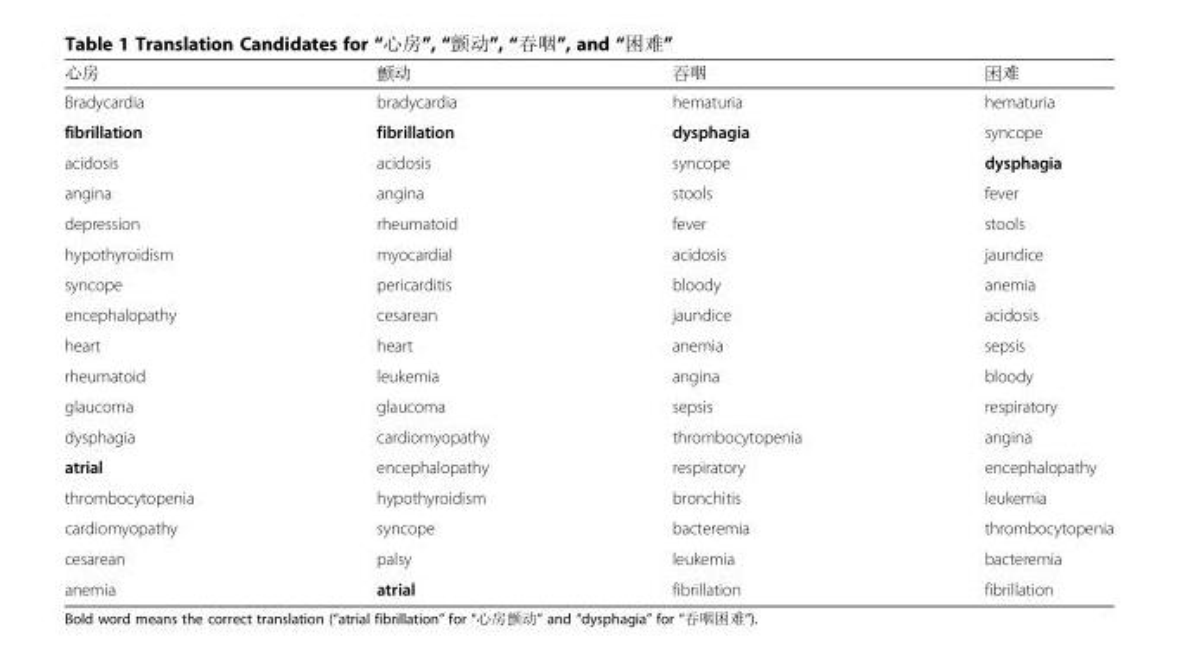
<table><thead><tr><td>心房</td><td>颤动</td><td>吞咽</td><td>困难</td></tr></thead><tbody><tr><td>Bradycardia</td><td>bradycardia</td><td>hematuria</td><td>hematuria</td></tr><tr><td>fibrillation</td><td>fibrillation</td><td>dysphagia</td><td>syncope</td></tr><tr><td>acidosis</td><td>acidosis</td><td>syncope</td><td>dysphagia</td></tr><tr><td>angina</td><td>angina</td><td>stools</td><td>fever</td></tr><tr><td>depression</td><td>rheumatoid</td><td>fever</td><td>stools</td></tr><tr><td>hypothyroidism</td><td>myocardial</td><td>acidosis</td><td>jaundice</td></tr><tr><td>syncope</td><td>pericarditis</td><td>bloody</td><td>anemia</td></tr><tr><td>encephalopathy</td><td>cesarean</td><td>jaundice</td><td>acidosis</td></tr><tr><td>heart</td><td>heart</td><td>anemia</td><td>sepsis</td></tr><tr><td>rheumatoid</td><td>leukemia</td><td>angina</td><td>bloody</td></tr><tr><td>glaucoma</td><td>glaucoma</td><td>sepsis</td><td>respiratory</td></tr><tr><td>dysphagia</td><td>cardiomyopathy</td><td>thrombocytopenia</td><td>angina</td></tr><tr><td>atrial</td><td>encephalopathy</td><td>respiratory</td><td>encephalopathy</td></tr><tr><td>thrombocytopenia</td><td>hypothyroidism</td><td>bronchitis</td><td>leukemia</td></tr><tr><td>cardiomyopathy</td><td>syncope</td><td>bacteremia</td><td>thrombocytopenia</td></tr><tr><td>cesarean</td><td>palsy</td><td>leukemia</td><td>bacteremia</td></tr><tr><td>anemia</td><td>atrial</td><td>fibrillation</td><td>fibrillation</td></tr></tbody></table>